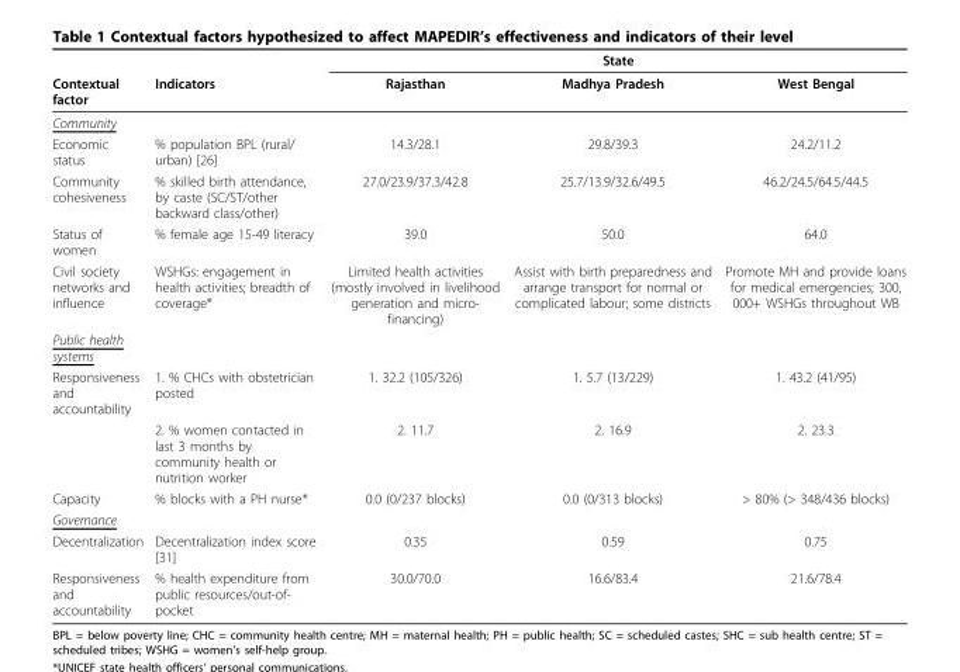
<table><thead><tr><td rowspan="2">Contextual factor</td><td rowspan="2">Indicators</td><td colspan="3">State</td></tr><tr><td>Rajasthan</td><td>Madhya Pradesh</td><td>West Bengal</td></tr></thead><tbody><tr><td colspan="5">Community</td></tr><tr><td>Economic status</td><td>% population BPL (rural/ urban) [26]</td><td>14.3/28.1</td><td>29.8/39.3</td><td>24.2/11.2</td></tr><tr><td>Community cohesiveness</td><td>% skilled birth attendance, by caste (SC/ST/other backward class/other)</td><td>27.0/23.9/37.3/42.8</td><td>25.7/13.9/32.6/49.5</td><td>46.2/24.5/64.5/44.5</td></tr><tr><td>Status of women</td><td>% female age 15-49 literacy</td><td>39.0</td><td>50.0</td><td>64.0</td></tr><tr><td>Civil society networks and influence</td><td>WSHGs: engagement in health activities; breadth of coverage*</td><td>Limited health activities (mostly involved in livelihood generation and micro- financing)</td><td>Assist with birth preparedness and arrange transport for normal or complicated labour; some districts</td><td>Promote MH and provide loans for medical emergencies; 300, 000+ WSHGs throughout WB</td></tr><tr><td colspan="5">Public health systems</td></tr><tr><td rowspan="2">Responsiveness and accountability</td><td>1. % CHCs with obstetrician posted</td><td>1. 32.2 (105/326)</td><td>1. 5.7 (13/229)</td><td>1. 43.2 (41/95)</td></tr><tr><td>2. % women contacted in last 3 months by community health or nutrition worker</td><td>2. 11.7</td><td>2. 16.9</td><td>2. 23.3</td></tr><tr><td>Capacity</td><td>% blocks with a PH nurse*</td><td>0.0 (0/237 blocks)</td><td>0.0 (0/313 blocks)</td><td>&gt; 80% (&gt; 348/436 blocks)</td></tr><tr><td colspan="5">Governance</td></tr><tr><td>Decentralization</td><td>Decentralization index score [31]</td><td>0.35</td><td>0.59</td><td>0.75</td></tr><tr><td>Responsiveness and accountability</td><td>% health expenditure from public resources/out-of- pocket</td><td>30.0/70.0</td><td>16.6/83.4</td><td>21.6/78.4</td></tr></tbody></table>